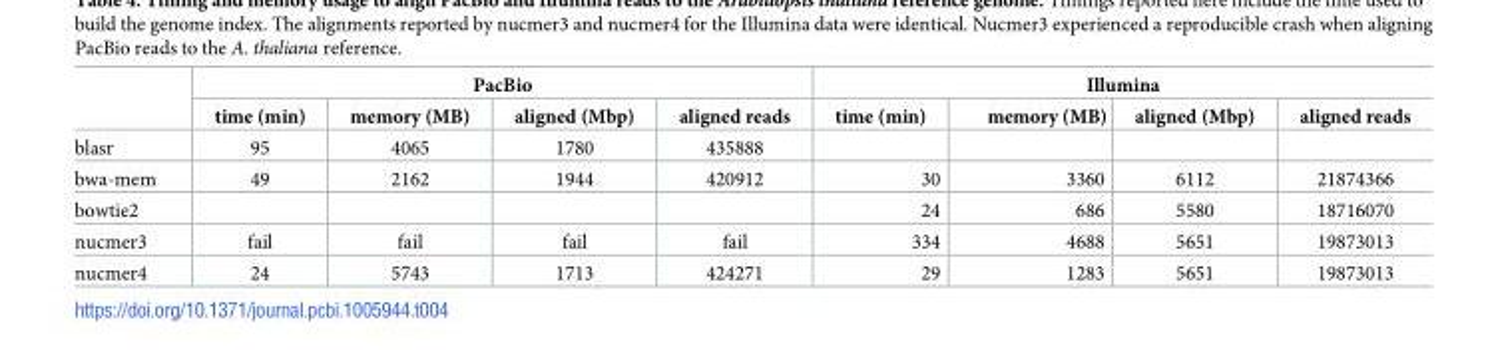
<table><thead><tr><td rowspan="2"></td><td colspan="4">PacBio</td><td colspan="4">Illumina</td></tr><tr><td>time (min)</td><td>memory (MB)</td><td>aligned (Mbp)</td><td>aligned reads</td><td>time (min)</td><td>memory (MB)</td><td>aligned (Mbp)</td><td>aligned reads</td></tr></thead><tbody><tr><td>blasr</td><td>95</td><td>4065</td><td>1780</td><td>435888</td><td></td><td></td><td></td><td></td></tr><tr><td>bwa-mem</td><td>49</td><td>2162</td><td>1944</td><td>420912</td><td>30</td><td>3360</td><td>6112</td><td>21874366</td></tr><tr><td>bowtie2</td><td></td><td></td><td></td><td></td><td>24</td><td>686</td><td>5580</td><td>18716070</td></tr><tr><td>nucmer3</td><td>fail</td><td>fail</td><td>fail</td><td>fail</td><td>334</td><td>4688</td><td>5651</td><td>19873013</td></tr><tr><td>nucmer4</td><td>24</td><td>5743</td><td>1713</td><td>424271</td><td>29</td><td>1283</td><td>5651</td><td>19873013</td></tr></tbody></table>